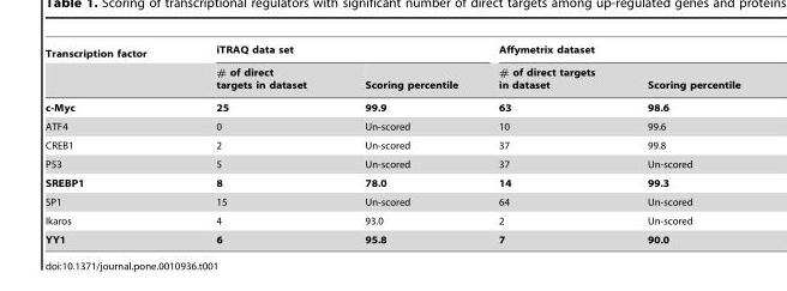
<table><thead><tr><td rowspan="2">Transcription factor</td><td colspan="2">iTRAQ data set</td><td colspan="2">Affymetrix dataset</td></tr><tr><td># of direct targets in dataset</td><td>Scoring percentile</td><td># of direct targets in dataset</td><td>Scoring percentile</td></tr></thead><tbody><tr><td>c-Myc</td><td>25</td><td>99.9</td><td>63</td><td>98.6</td></tr><tr><td>ATF4</td><td>0</td><td>Un-scored</td><td>10</td><td>99.6</td></tr><tr><td>CREB1</td><td>2</td><td>Un-scored</td><td>37</td><td>99.8</td></tr><tr><td>P53</td><td>5</td><td>Un-scored</td><td>37</td><td>Un-scored</td></tr><tr><td>SREBP1</td><td>8</td><td>78.0</td><td>14</td><td>99.3</td></tr><tr><td>SP1</td><td>15</td><td>Un-scored</td><td>64</td><td>Un-scored</td></tr><tr><td>Ikaros</td><td>4</td><td>93.0</td><td>2</td><td>Un-scored</td></tr><tr><td>YY1</td><td>6</td><td>95.8</td><td>7</td><td>90.0</td></tr></tbody></table>